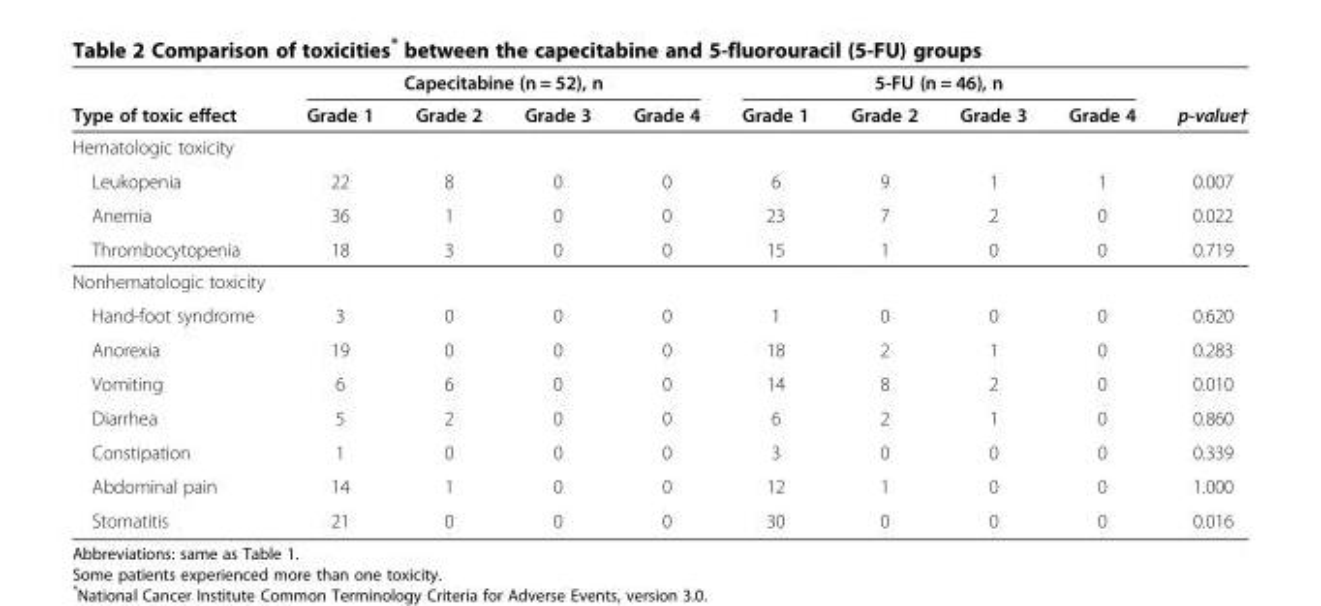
<table><thead><tr><td rowspan="2">Type of toxic effect</td><td colspan="4">Capecitabine (n = 52), n</td><td colspan="4">5-FU (n = 46), n</td><td rowspan="2">p-value†</td></tr><tr><td>Grade 1</td><td>Grade 2</td><td>Grade 3</td><td>Grade 4</td><td>Grade 1</td><td>Grade 2</td><td>Grade 3</td><td>Grade 4</td></tr></thead><tbody><tr><td colspan="10">Hematologic toxicity</td></tr><tr><td>Leukopenia</td><td>22</td><td>8</td><td>0</td><td>0</td><td>6</td><td>9</td><td>1</td><td>1</td><td>0.007</td></tr><tr><td>Anemia</td><td>36</td><td>1</td><td>0</td><td>0</td><td>23</td><td>7</td><td>2</td><td>0</td><td>0.022</td></tr><tr><td>Thrombocytopenia</td><td>18</td><td>3</td><td>0</td><td>0</td><td>15</td><td>1</td><td>0</td><td>0</td><td>0.719</td></tr><tr><td colspan="10">Nonhematologic toxicity</td></tr><tr><td>Hand-foot syndrome</td><td>3</td><td>0</td><td>0</td><td>0</td><td>1</td><td>0</td><td>0</td><td>0</td><td>0.620</td></tr><tr><td>Anorexia</td><td>19</td><td>0</td><td>0</td><td>0</td><td>18</td><td>2</td><td>1</td><td>0</td><td>0.283</td></tr><tr><td>Vomiting</td><td>6</td><td>6</td><td>0</td><td>0</td><td>14</td><td>8</td><td>2</td><td>0</td><td>0.010</td></tr><tr><td>Diarrhea</td><td>5</td><td>2</td><td>0</td><td>0</td><td>6</td><td>2</td><td>1</td><td>0</td><td>0.860</td></tr><tr><td>Constipation</td><td>1</td><td>0</td><td>0</td><td>0</td><td>3</td><td>0</td><td>0</td><td>0</td><td>0.339</td></tr><tr><td>Abdominal pain</td><td>14</td><td>1</td><td>0</td><td>0</td><td>12</td><td>1</td><td>0</td><td>0</td><td>1.000</td></tr><tr><td>Stomatitis</td><td>21</td><td>0</td><td>0</td><td>0</td><td>30</td><td>0</td><td>0</td><td>0</td><td>0.016</td></tr></tbody></table>